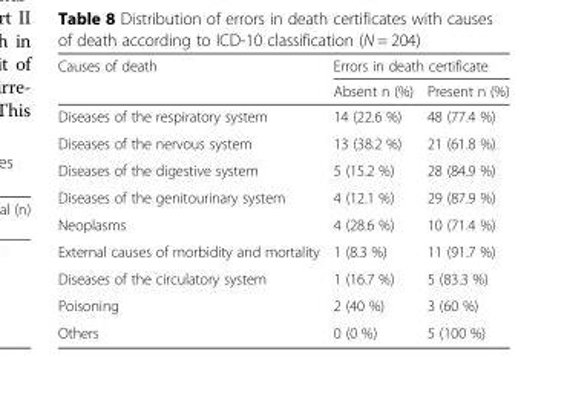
<table><thead><tr><td rowspan="2">Causes of death</td><td colspan="2">Errors in death certificate</td></tr><tr><td>Absent n (%)</td><td>Present n (%)</td></tr></thead><tbody><tr><td>Diseases of the respiratory system</td><td>14 (22.6 %)</td><td>48 (77.4 %)</td></tr><tr><td>Diseases of the nervous system</td><td>13 (38.2 %)</td><td>21 (61.8 %)</td></tr><tr><td>Diseases of the digestive system</td><td>5 (15.2 %)</td><td>28 (84.9 %)</td></tr><tr><td>Diseases of the genitourinary system</td><td>4 (12.1 %)</td><td>29 (87.9 %)</td></tr><tr><td>Neoplasms</td><td>4 (28.6 %)</td><td>10 (71.4 %)</td></tr><tr><td>External causes of morbidity and mortality</td><td>1 (8.3 %)</td><td>11 (91.7 %)</td></tr><tr><td>Diseases of the circulatory system</td><td>1 (16.7 %)</td><td>5 (83.3 %)</td></tr><tr><td>Poisoning</td><td>2 (40 %)</td><td>3 (60 %)</td></tr><tr><td>Others</td><td>0 (0 %)</td><td>5 (100 %)</td></tr></tbody></table>